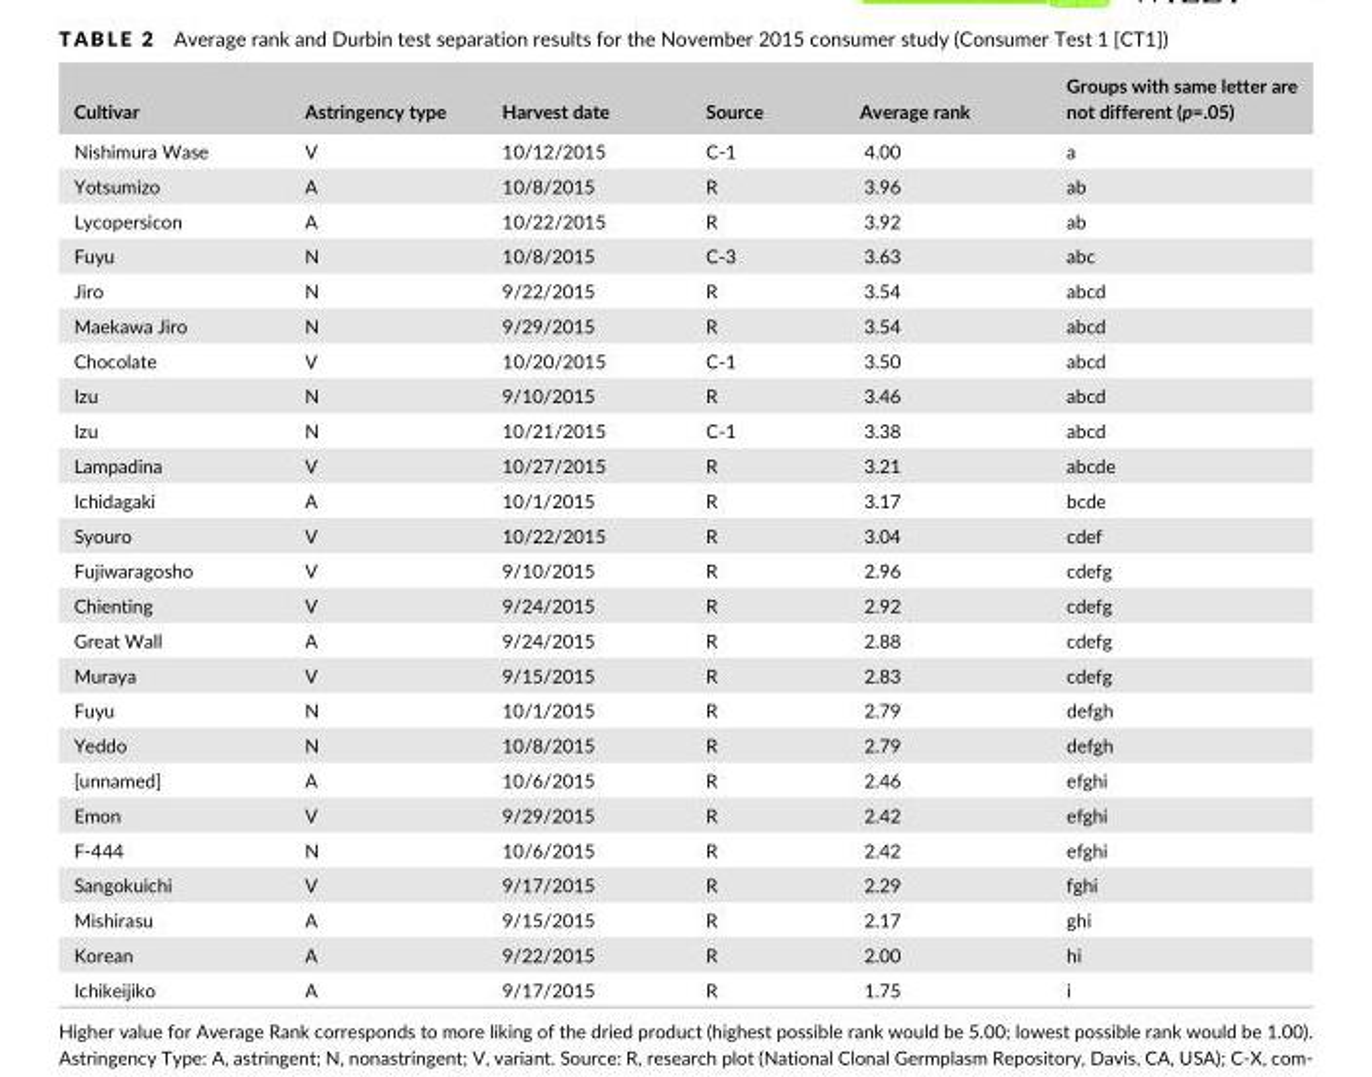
<table><thead><tr><td>Cultivar</td><td>Astringency type</td><td>Harvest date</td><td>Source</td><td>Average rank</td><td>Groups with same letter are not different (p=.05)</td></tr></thead><tbody><tr><td>Nishimura Wase</td><td>V</td><td>10/12/2015</td><td>C- 1</td><td>4.00</td><td>a</td></tr><tr><td>Yotsumizo</td><td>A</td><td>10/8/2015</td><td>R</td><td>3.96</td><td>ab</td></tr><tr><td>Lycopersicon</td><td>A</td><td>10/22/2015</td><td>R</td><td>3.92</td><td>ab</td></tr><tr><td>Fuyu</td><td>N</td><td>10/8/2015</td><td>C- 3</td><td>3.63</td><td>abc</td></tr><tr><td>Jiro</td><td>N</td><td>9/22/2015</td><td>R</td><td>3.54</td><td>abcd</td></tr><tr><td>Maekawa Jiro</td><td>N</td><td>9/29/2015</td><td>R</td><td>3.54</td><td>abcd</td></tr><tr><td>Chocolate</td><td>V</td><td>10/20/2015</td><td>C- 1</td><td>3.50</td><td>abcd</td></tr><tr><td>Izu</td><td>N</td><td>9/10/2015</td><td>R</td><td>3.46</td><td>abcd</td></tr><tr><td>Izu</td><td>N</td><td>10/21/2015</td><td>C- 1</td><td>3.38</td><td>abcd</td></tr><tr><td>Lampadina</td><td>V</td><td>10/27/2015</td><td>R</td><td>3.21</td><td>abcde</td></tr><tr><td>Ichidagaki</td><td>A</td><td>10/1/2015</td><td>R</td><td>3.17</td><td>bcde</td></tr><tr><td>Syouro</td><td>V</td><td>10/22/2015</td><td>R</td><td>3.04</td><td>cdef</td></tr><tr><td>Fujiwaragosho</td><td>V</td><td>9/10/2015</td><td>R</td><td>2.96</td><td>cdefg</td></tr><tr><td>Chienting</td><td>V</td><td>9/24/2015</td><td>R</td><td>2.92</td><td>cdefg</td></tr><tr><td>Great Wall</td><td>A</td><td>9/24/2015</td><td>R</td><td>2.88</td><td>cdefg</td></tr><tr><td>Muraya</td><td>V</td><td>9/15/2015</td><td>R</td><td>2.83</td><td>cdefg</td></tr><tr><td>Fuyu</td><td>N</td><td>10/1/2015</td><td>R</td><td>2.79</td><td>defgh</td></tr><tr><td>Yeddo</td><td>N</td><td>10/8/2015</td><td>R</td><td>2.79</td><td>defgh</td></tr><tr><td>[unnamed]</td><td>A</td><td>10/6/2015</td><td>R</td><td>2.46</td><td>efghi</td></tr><tr><td>Emon</td><td>V</td><td>9/29/2015</td><td>R</td><td>2.42</td><td>efghi</td></tr><tr><td>F- 444</td><td>N</td><td>10/6/2015</td><td>R</td><td>2.42</td><td>efghi</td></tr><tr><td>Sangokuichi</td><td>V</td><td>9/17/2015</td><td>R</td><td>2.29</td><td>fghi</td></tr><tr><td>Mishirasu</td><td>A</td><td>9/15/2015</td><td>R</td><td>2.17</td><td>ghi</td></tr><tr><td>Korean</td><td>A</td><td>9/22/2015</td><td>R</td><td>2.00</td><td>hi</td></tr><tr><td>Ichikeijiko</td><td>A</td><td>9/17/2015</td><td>R</td><td>1.75</td><td>i</td></tr></tbody></table>